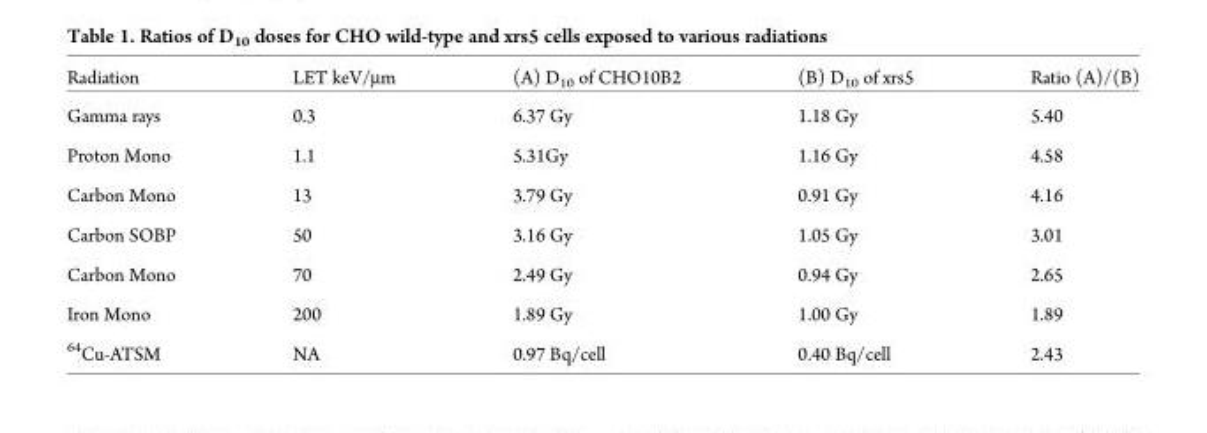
<table><thead><tr><td>Radiation</td><td>LET keV/μm</td><td>(A) D<sub>10</sub> of CHO10B2</td><td>(B) D<sub>10</sub> of xrs5</td><td>Ratio (A)/(B)</td></tr></thead><tbody><tr><td>Gamma rays</td><td>0.3</td><td>6.37 Gy</td><td>1.18 Gy</td><td>5.40</td></tr><tr><td>Proton Mono</td><td>1.1</td><td>5.31Gy</td><td>1.16 Gy</td><td>4.58</td></tr><tr><td>Carbon Mono</td><td>13</td><td>3.79 Gy</td><td>0.91 Gy</td><td>4.16</td></tr><tr><td>Carbon SOBP</td><td>50</td><td>3.16 Gy</td><td>1.05 Gy</td><td>3.01</td></tr><tr><td>Carbon Mono</td><td>70</td><td>2.49 Gy</td><td>0.94 Gy</td><td>2.65</td></tr><tr><td>Iron Mono</td><td>200</td><td>1.89 Gy</td><td>1.00 Gy</td><td>1.89</td></tr><tr><td><sup>64</sup>Cu-ATSM</td><td>NA</td><td>0.97 Bq/cell</td><td>0.40 Bq/cell</td><td>2.43</td></tr></tbody></table>